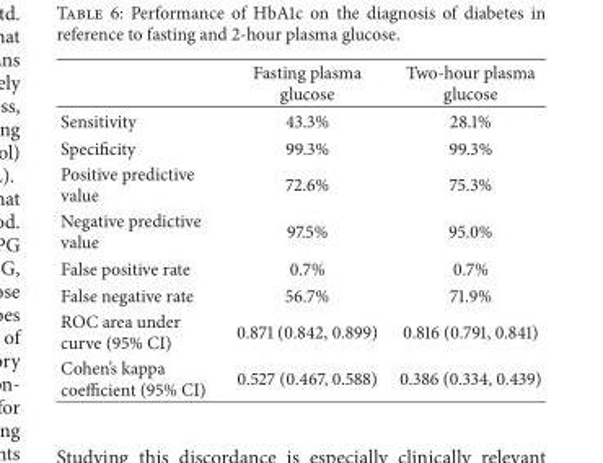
<table><thead><tr><td></td><td>Fasting plasma glucose</td><td>Two-hour plasma glucose</td></tr></thead><tbody><tr><td>Sensitivity</td><td>43.3%</td><td>28.1%</td></tr><tr><td>Specificity</td><td>99.3%</td><td>99.3%</td></tr><tr><td>Positive predictive value</td><td>72.6%</td><td>75.3%</td></tr><tr><td>Negative predictive value</td><td>97.5%</td><td>95.0%</td></tr><tr><td>False positive rate</td><td>0.7%</td><td>0.7%</td></tr><tr><td>False negative rate</td><td>56.7%</td><td>71.9%</td></tr><tr><td>ROC area under curve (95% CI)</td><td>0.871 (0.842, 0.899)</td><td>0.816 (0.791, 0.841)</td></tr><tr><td>Cohen’s kappa coefficient (95% CI)</td><td>0.527 (0.467, 0.588)</td><td>0.386 (0.334, 0.439)</td></tr></tbody></table>